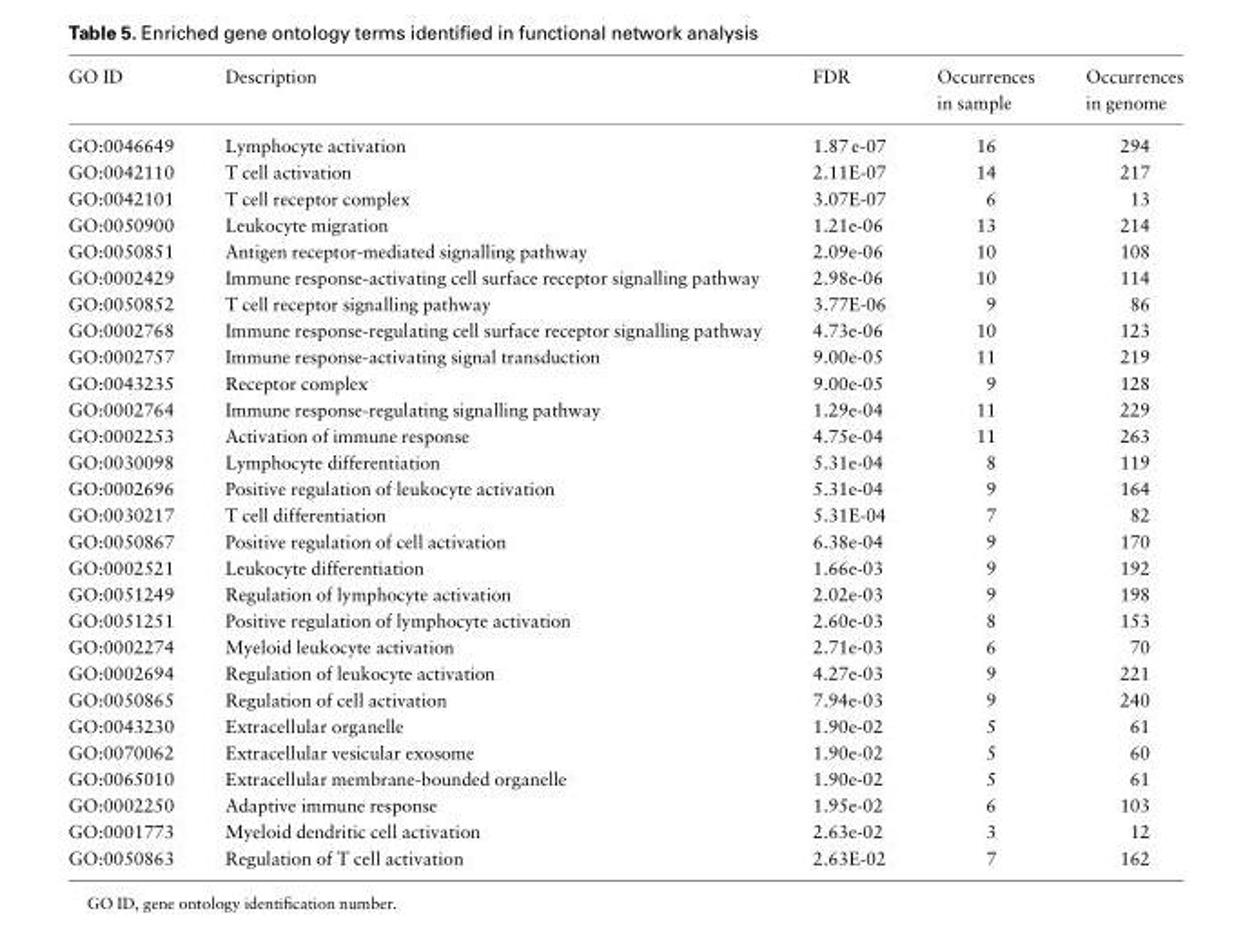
<table><thead><tr><td>GO ID</td><td>Description</td><td>FDR</td><td>Occurrences in sample</td><td>Occurrences in genome</td></tr></thead><tbody><tr><td>GO:0046649</td><td>Lymphocyte activation</td><td>1.87 e-07</td><td>16</td><td>294</td></tr><tr><td>GO:0042110</td><td>T cell activation</td><td>2.11E-07</td><td>14</td><td>217</td></tr><tr><td>GO:0042101</td><td>T cell receptor complex</td><td>3.07E-07</td><td>6</td><td>13</td></tr><tr><td>GO:0050900</td><td>Leukocyte migration</td><td>1.21e-06</td><td>13</td><td>214</td></tr><tr><td>GO:0050851</td><td>Antigen receptor-mediated signalling pathway</td><td>2.09e-06</td><td>10</td><td>108</td></tr><tr><td>GO:0002429</td><td>Immune response-activating cell surface receptor signalling pathway</td><td>2.98e-06</td><td>10</td><td>114</td></tr><tr><td>GO:0050852</td><td>T cell receptor signalling pathway</td><td>3.77E-06</td><td>9</td><td>86</td></tr><tr><td>GO:0002768</td><td>Immune response-regulating cell surface receptor signalling pathway</td><td>4.73e-06</td><td>10</td><td>123</td></tr><tr><td>GO:0002757</td><td>Immune response-activating signal transduction</td><td>9.00e-05</td><td>11</td><td>219</td></tr><tr><td>GO:0043235</td><td>Receptor complex</td><td>9.00e-05</td><td>9</td><td>128</td></tr><tr><td>GO:0002764</td><td>Immune response-regulating signalling pathway</td><td>1.29e-04</td><td>11</td><td>229</td></tr><tr><td>GO:0002253</td><td>Activation of immune response</td><td>4.75e-04</td><td>11</td><td>263</td></tr><tr><td>GO:0030098</td><td>Lymphocyte differentiation</td><td>5.31e-04</td><td>8</td><td>119</td></tr><tr><td>GO:0002696</td><td>Positive regulation of leukocyte activation</td><td>5.31e-04</td><td>9</td><td>164</td></tr><tr><td>GO:0030217</td><td>T cell differentiation</td><td>5.31E-04</td><td>7</td><td>82</td></tr><tr><td>GO:0050867</td><td>Positive regulation of cell activation</td><td>6.38e-04</td><td>9</td><td>170</td></tr><tr><td>GO:0002521</td><td>Leukocyte differentiation</td><td>1.66e-03</td><td>9</td><td>192</td></tr><tr><td>GO:0051249</td><td>Regulation of lymphocyte activation</td><td>2.02e-03</td><td>9</td><td>198</td></tr><tr><td>GO:0051251</td><td>Positive regulation of lymphocyte activation</td><td>2.60e-03</td><td>8</td><td>153</td></tr><tr><td>GO:0002274</td><td>Myeloid leukocyte activation</td><td>2.71e-03</td><td>6</td><td>70</td></tr><tr><td>GO:0002694</td><td>Regulation of leukocyte activation</td><td>4.27e-03</td><td>9</td><td>221</td></tr><tr><td>GO:0050865</td><td>Regulation of cell activation</td><td>7.94e-03</td><td>9</td><td>240</td></tr><tr><td>GO:0043230</td><td>Extracellular organelle</td><td>1.90e-02</td><td>5</td><td>61</td></tr><tr><td>GO:0070062</td><td>Extracellular vesicular exosome</td><td>1.90e-02</td><td>5</td><td>60</td></tr><tr><td>GO:0065010</td><td>Extracellular membrane-bounded organelle</td><td>1.90e-02</td><td>5</td><td>61</td></tr><tr><td>GO:0002250</td><td>Adaptive immune response</td><td>1.95e-02</td><td>6</td><td>103</td></tr><tr><td>GO:0001773</td><td>Myeloid dendritic cell activation</td><td>2.63e-02</td><td>3</td><td>12</td></tr><tr><td>GO:0050863</td><td>Regulation of T cell activation</td><td>2.63E-02</td><td>7</td><td>162</td></tr></tbody></table>